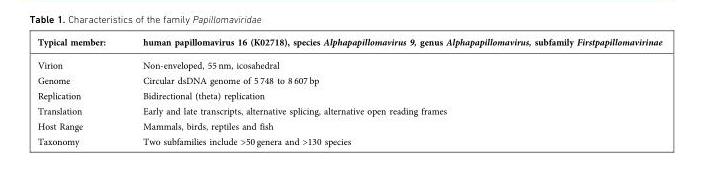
<table><thead><tr><td>Typical member:</td><td>human papillomavirus 16 (K02718), species Alphapapillomavirus 9, genus Alphapapillomavirus, subfamily Firstpapillomavirinae</td></tr></thead><tbody><tr><td>Virion</td><td>Non-enveloped, 55 nm, icosahedral</td></tr><tr><td>Genome</td><td>Circular dsDNA genome of 5 748 to 8 607 bp</td></tr><tr><td>Replication</td><td>Bidirectional (theta) replication</td></tr><tr><td>Translation</td><td>Early and late transcripts, alternative splicing, alternative open reading frames</td></tr><tr><td>Host Range</td><td>Mammals, birds, reptiles and fish</td></tr><tr><td>Taxonomy</td><td>Two subfamilies include &gt;50 genera and &gt;130 species</td></tr></tbody></table>